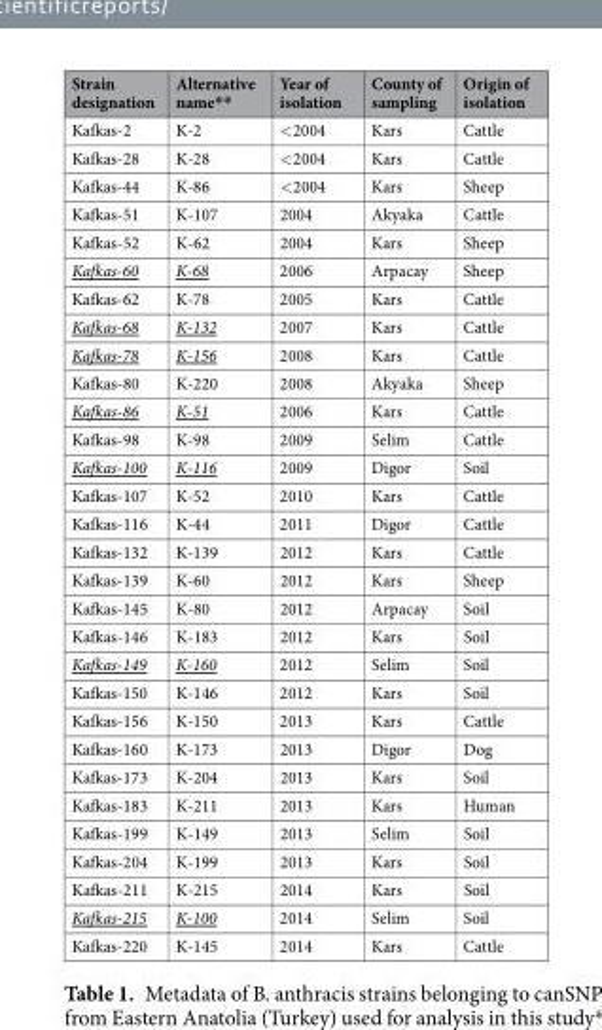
<table><thead><tr><td>Strain designation</td><td>Alternative name**</td><td>Year of isolation</td><td>County of sampling</td><td>Origin of isolation</td></tr></thead><tbody><tr><td>Kafkas-2</td><td>K-2</td><td>&lt;2004</td><td>Kars</td><td>Cattle</td></tr><tr><td>Kafkas-28</td><td>K-28</td><td>&lt;2004</td><td>Kars</td><td>Cattle</td></tr><tr><td>Kafkas-44</td><td>K-86</td><td>&lt;2004</td><td>Kars</td><td>Sheep</td></tr><tr><td>Kafkas-51</td><td>K-107</td><td>2004</td><td>Akyaka</td><td>Cattle</td></tr><tr><td>Kafkas-52</td><td>K-62</td><td>2004</td><td>Kars</td><td>Sheep</td></tr><tr><td>Kafkas-60</td><td>K-68</td><td>2006</td><td>Arpacay</td><td>Sheep</td></tr><tr><td>Kafkas-62</td><td>K-78</td><td>2005</td><td>Kars</td><td>Cattle</td></tr><tr><td>Kafkas-68</td><td>K-132</td><td>2007</td><td>Kars</td><td>Cattle</td></tr><tr><td>Kafkas-78</td><td>K-156</td><td>2008</td><td>Kars</td><td>Cattle</td></tr><tr><td>Kafkas-80</td><td>K-220</td><td>2008</td><td>Akyaka</td><td>Sheep</td></tr><tr><td>Kafkas-86</td><td>K-51</td><td>2006</td><td>Kars</td><td>Cattle</td></tr><tr><td>Kafkas-98</td><td>K-98</td><td>2009</td><td>Selim</td><td>Cattle</td></tr><tr><td>Kafkas-100</td><td>K-116</td><td>2009</td><td>Digor</td><td>Soil</td></tr><tr><td>Kafkas-107</td><td>K-52</td><td>2010</td><td>Kars</td><td>Cattle</td></tr><tr><td>Kafkas-116</td><td>K-44</td><td>2011</td><td>Digor</td><td>Cattle</td></tr><tr><td>Kafkas-132</td><td>K-139</td><td>2012</td><td>Kars</td><td>Cattle</td></tr><tr><td>Kafkas-139</td><td>K-60</td><td>2012</td><td>Kars</td><td>Sheep</td></tr><tr><td>Kafkas-145</td><td>K-80</td><td>2012</td><td>Arpacay</td><td>Soil</td></tr><tr><td>Kafkas-146</td><td>K-183</td><td>2012</td><td>Kars</td><td>Soil</td></tr><tr><td>Kafkas-149</td><td>K-160</td><td>2012</td><td>Selim</td><td>Soil</td></tr><tr><td>Kafkas-150</td><td>K-146</td><td>2012</td><td>Kars</td><td>Soil</td></tr><tr><td>Kafkas-156</td><td>K-150</td><td>2013</td><td>Kars</td><td>Cattle</td></tr><tr><td>Kafkas-160</td><td>K-173</td><td>2013</td><td>Digor</td><td>Dog</td></tr><tr><td>Kafkas-173</td><td>K-204</td><td>2013</td><td>Kars</td><td>Soil</td></tr><tr><td>Kafkas-183</td><td>K-211</td><td>2013</td><td>Kars</td><td>Human</td></tr><tr><td>Kafkas-199</td><td>K-149</td><td>2013</td><td>Selim</td><td>Soil</td></tr><tr><td>Kafkas-204</td><td>K-199</td><td>2013</td><td>Kars</td><td>Soil</td></tr><tr><td>Kafkas-211</td><td>K-215</td><td>2014</td><td>Kars</td><td>Soil</td></tr><tr><td>Kafkas-215</td><td>K-100</td><td>2014</td><td>Selim</td><td>Soil</td></tr><tr><td>Kafkas-220</td><td>K-145</td><td>2014</td><td>Kars</td><td>Cattle</td></tr></tbody></table>